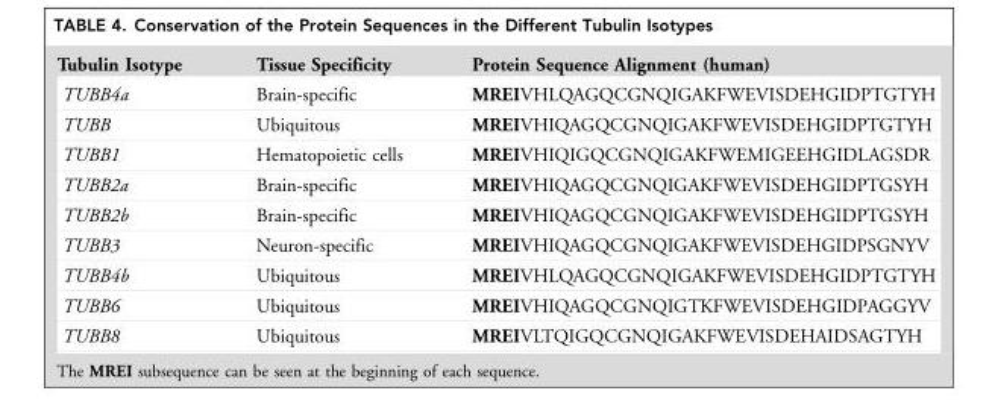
<table><thead><tr><td>Tubulin Isotype</td><td>Tissue Specificity</td><td>Protein Sequence Alignment (human)</td></tr></thead><tbody><tr><td>TUBB4a</td><td>Brain-specific</td><td>MREIVHLQAGQCGNQIGAKFWEVISDEHGIDPTGTYH</td></tr><tr><td>TUBB</td><td>Ubiquitous</td><td>MREIVHIQAGQCGNQIGAKFWEVISDEHGIDPTGTYH</td></tr><tr><td>TUBB1</td><td>Hematopoietic cells</td><td>MREIVHIQIGQCGNQIGAKFWEMIGEEHGIDLAGSDR</td></tr><tr><td>TUBB2a</td><td>Brain-specific</td><td>MREIVHIQAGQCGNQIGAKFWEVISDEHGIDPTGSYH</td></tr><tr><td>TUBB2b</td><td>Brain-specific</td><td>MREIVHIQAGQCGNQIGAKFWEVISDEHGIDPTGSYH</td></tr><tr><td>TUBB3</td><td>Neuron-specific</td><td>MREIVHIQAGQCGNQIGAKFWEVISDEHGIDPSGNYV</td></tr><tr><td>TUBB4b</td><td>Ubiquitous</td><td>MREIVHLQAGQCGNQIGAKFWEVISDEHGIDPTGTYH</td></tr><tr><td>TUBB6</td><td>Ubiquitous</td><td>MREIVHIQAGQCGNQIGTKFWEVISDEHGIDPAGGYV</td></tr><tr><td>TUBB8</td><td>Ubiquitous</td><td>MREIVLTQIGQCGNQIGAKFWEVISDEHAIDSAGTYH</td></tr></tbody></table>